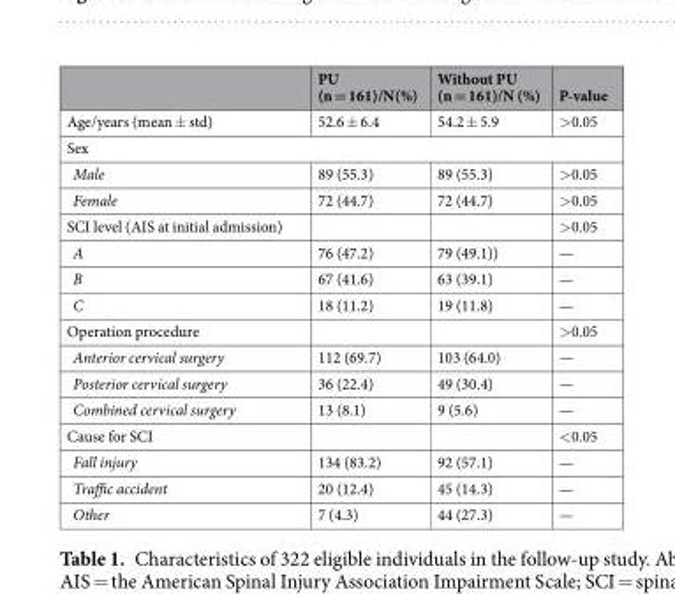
<table><thead><tr><td></td><td>PU (n = 161)/N(%)</td><td>Without PU (n = 161)/N (%)</td><td>P-value</td></tr></thead><tbody><tr><td>Age/years (mean ± std)</td><td>52.6 ± 6.4</td><td>54.2 ± 5.9</td><td>&gt;0.05</td></tr><tr><td colspan="4">Sex</td></tr><tr><td>Male</td><td>89 (55.3)</td><td>89 (55.3)</td><td>&gt;0.05</td></tr><tr><td>Female</td><td>72 (44.7)</td><td>72 (44.7)</td><td>&gt;0.05</td></tr><tr><td>SCI level (AIS at initial admission)</td><td></td><td></td><td>&gt;0.05</td></tr><tr><td>A</td><td>76 (47.2)</td><td>79 (49.1))</td><td>—</td></tr><tr><td>B</td><td>67 (41.6)</td><td>63 (39.1)</td><td>—</td></tr><tr><td>C</td><td>18 (11.2)</td><td>19 (11.8)</td><td>—</td></tr><tr><td>Operation procedure</td><td></td><td></td><td>&gt;0.05</td></tr><tr><td>Anterior cervical surgery</td><td>112 (69.7)</td><td>103 (64.0)</td><td>—</td></tr><tr><td>Posterior cervical surgery</td><td>36 (22.4)</td><td>49 (30.4)</td><td>—</td></tr><tr><td>Combined cervical surgery</td><td>13 (8.1)</td><td>9 (5.6)</td><td>—</td></tr><tr><td>Cause for SCI</td><td></td><td></td><td>&lt;0.05</td></tr><tr><td>Fall injury</td><td>134 (83.2)</td><td>92 (57.1)</td><td>—</td></tr><tr><td>Traffic accident</td><td>20 (12.4)</td><td>45 (14.3)</td><td>—</td></tr><tr><td>Other</td><td>7 (4.3)</td><td>44 (27.3)</td><td>—</td></tr></tbody></table>